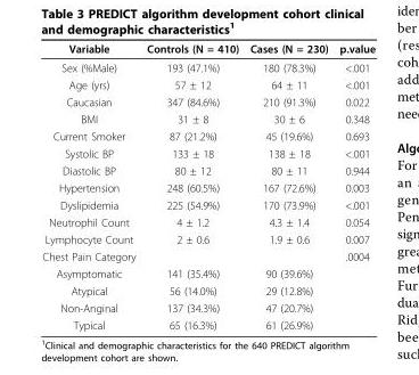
<table><thead><tr><td>Variable</td><td>Controls (N = 410)</td><td>Cases (N = 230)</td><td>p.value</td></tr></thead><tbody><tr><td>Sex (%Male)</td><td>193 (47.1%)</td><td>180 (78.3%)</td><td>&lt;.001</td></tr><tr><td>Age (yrs)</td><td>57 ± 12</td><td>64 ± 11</td><td>&lt;.001</td></tr><tr><td>Caucasian</td><td>347 (84.6%)</td><td>210 (91.3%)</td><td>0.022</td></tr><tr><td>BMI</td><td>31 ± 8</td><td>30 ± 6</td><td>0.348</td></tr><tr><td>Current Smoker</td><td>87 (21.2%)</td><td>45 (19.6%)</td><td>0.693</td></tr><tr><td>Systolic BP</td><td>133 ± 18</td><td>138 ± 18</td><td>&lt;.001</td></tr><tr><td>Diastolic BP</td><td>80 ± 12</td><td>80 ± 11</td><td>0.944</td></tr><tr><td>Hypertension</td><td>248 (60.5%)</td><td>167 (72.6%)</td><td>0.003</td></tr><tr><td>Dyslipidemia</td><td>225 (54.9%)</td><td>170 (73.9%)</td><td>&lt;.001</td></tr><tr><td>Neutrophil Count</td><td>4 ± 1.2</td><td>4.3 ± 1.4</td><td>0.054</td></tr><tr><td>Lymphocyte Count</td><td>2 ± 0.6</td><td>1.9 ± 0.6</td><td>0.007</td></tr><tr><td>Chest Pain Category</td><td></td><td></td><td>.0004</td></tr><tr><td>Asymptomatic</td><td>141 (35.4%)</td><td>90 (39.6%)</td><td></td></tr><tr><td>Atypical</td><td>56 (14.0%)</td><td>29 (12.8%)</td><td></td></tr><tr><td>Non-Anginal</td><td>137 (34.3%)</td><td>47 (20.7%)</td><td></td></tr><tr><td>Typical</td><td>65 (16.3%)</td><td>61 (26.9%)</td><td></td></tr></tbody></table>